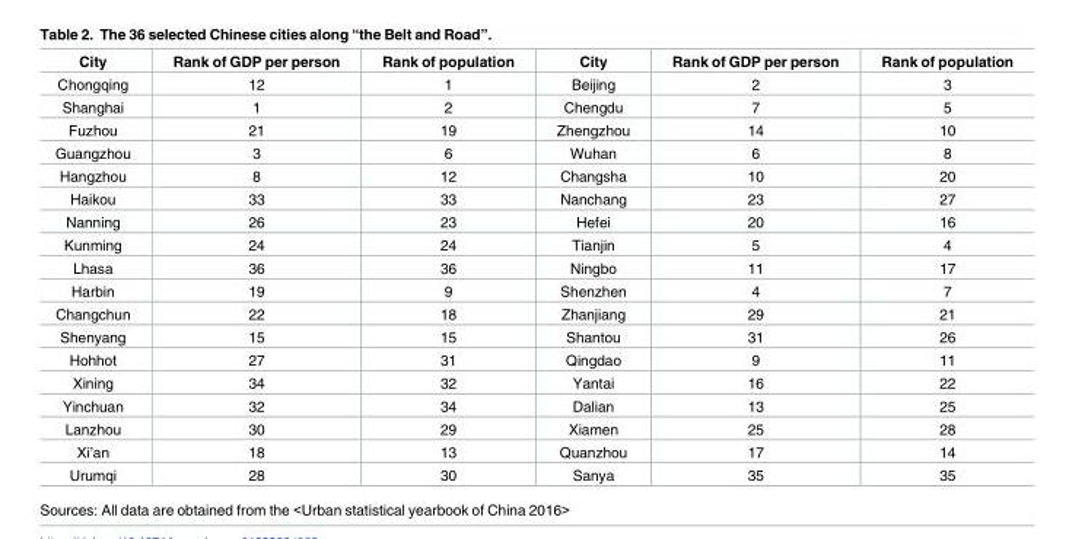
<table><thead><tr><td>City</td><td>Rank of GDP per person</td><td>Rank of population</td><td>City</td><td>Rank of GDP per person</td><td>Rank of population</td></tr></thead><tbody><tr><td>Chongqing</td><td>12</td><td>1</td><td>Beijing</td><td>2</td><td>3</td></tr><tr><td>Shanghai</td><td>1</td><td>2</td><td>Chengdu</td><td>7</td><td>5</td></tr><tr><td>Fuzhou</td><td>21</td><td>19</td><td>Zhengzhou</td><td>14</td><td>10</td></tr><tr><td>Guangzhou</td><td>3</td><td>6</td><td>Wuhan</td><td>6</td><td>8</td></tr><tr><td>Hangzhou</td><td>8</td><td>12</td><td>Changsha</td><td>10</td><td>20</td></tr><tr><td>Haikou</td><td>33</td><td>33</td><td>Nanchang</td><td>23</td><td>27</td></tr><tr><td>Nanning</td><td>26</td><td>23</td><td>Hefei</td><td>20</td><td>16</td></tr><tr><td>Kunming</td><td>24</td><td>24</td><td>Tianjin</td><td>5</td><td>4</td></tr><tr><td>Lhasa</td><td>36</td><td>36</td><td>Ningbo</td><td>11</td><td>17</td></tr><tr><td>Harbin</td><td>19</td><td>9</td><td>Shenzhen</td><td>4</td><td>7</td></tr><tr><td>Changchun</td><td>22</td><td>18</td><td>Zhanjiang</td><td>29</td><td>21</td></tr><tr><td>Shenyang</td><td>15</td><td>15</td><td>Shantou</td><td>31</td><td>26</td></tr><tr><td>Hohhot</td><td>27</td><td>31</td><td>Qingdao</td><td>9</td><td>11</td></tr><tr><td>Xining</td><td>34</td><td>32</td><td>Yantai</td><td>16</td><td>22</td></tr><tr><td>Yinchuan</td><td>32</td><td>34</td><td>Dalian</td><td>13</td><td>25</td></tr><tr><td>Lanzhou</td><td>30</td><td>29</td><td>Xiamen</td><td>25</td><td>28</td></tr><tr><td>Xi’an</td><td>18</td><td>13</td><td>Quanzhou</td><td>17</td><td>14</td></tr><tr><td>Urumqi</td><td>28</td><td>30</td><td>Sanya</td><td>35</td><td>35</td></tr></tbody></table>